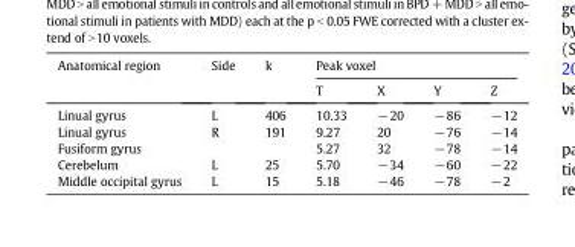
<table><thead><tr><td rowspan="2">Anatomical region</td><td rowspan="2">Side</td><td rowspan="2">k</td><td colspan="4">Peak voxel</td></tr><tr><td>T</td><td>X</td><td>Y</td><td>Z</td></tr></thead><tbody><tr><td>Linual gyrus</td><td>L</td><td>406</td><td>10.33</td><td>−20</td><td>−86</td><td>−12</td></tr><tr><td>Linual gyrus</td><td rowspan="2">R</td><td rowspan="2">191</td><td>9.27</td><td>20</td><td>−76</td><td>−14</td></tr><tr><td>Fusiform gyrus</td><td>5.27</td><td>32</td><td>−78</td><td>−14</td></tr><tr><td>Cerebelum</td><td>L</td><td>25</td><td>5.70</td><td>−34</td><td>−60</td><td>−22</td></tr><tr><td>Middle occipital gyrus</td><td>L</td><td>15</td><td>5.18</td><td>−46</td><td>−78</td><td>−2</td></tr></tbody></table>